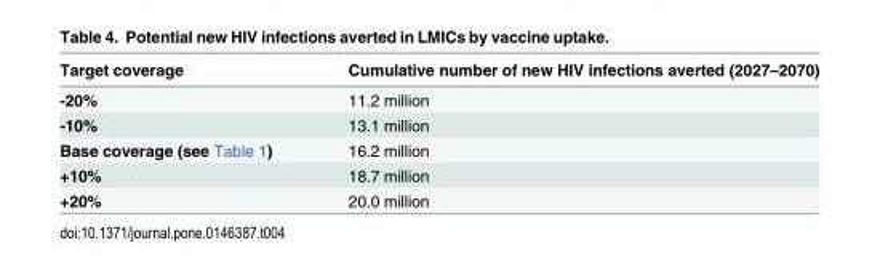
<table><thead><tr><td>Target coverage</td><td>Cumulative number of new HIV infections averted (2027–2070)</td></tr></thead><tbody><tr><td>-20%</td><td>11.2 million</td></tr><tr><td>-10%</td><td>13.1 million</td></tr><tr><td>Base coverage (see Table 1)</td><td>16.2 million</td></tr><tr><td>+10%</td><td>18.7 million</td></tr><tr><td>+20%</td><td>20.0 million</td></tr></tbody></table>